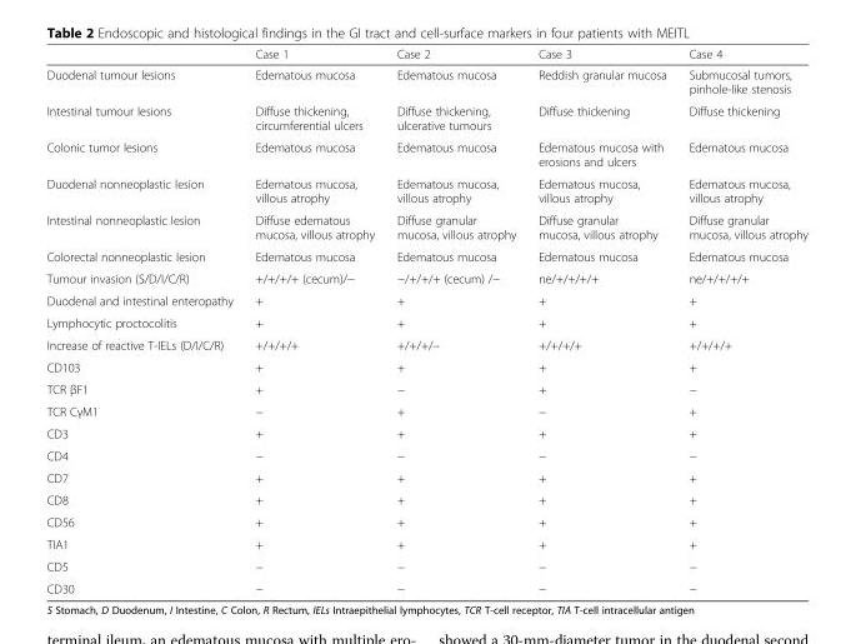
<table><thead><tr><td></td><td>Case 1</td><td>Case 2</td><td>Case 3</td><td>Case 4</td></tr></thead><tbody><tr><td>Duodenal tumour lesions</td><td>Edematous mucosa</td><td>Edematous mucosa</td><td>Reddish granular mucosa</td><td>Submucosal tumors, pinhole-like stenosis</td></tr><tr><td>Intestinal tumour lesions</td><td>Diffuse thickening, circumferential ulcers</td><td>Diffuse thickening, ulcerative tumours</td><td>Diffuse thickening</td><td>Diffuse thickening</td></tr><tr><td>Colonic tumor lesions</td><td>Edematous mucosa</td><td>Edematous mucosa</td><td>Edematous mucosa with erosions and ulcers</td><td>Edematous mucosa</td></tr><tr><td>Duodenal nonneoplastic lesion</td><td>Edematous mucosa, villous atrophy</td><td>Edematous mucosa, villous atrophy</td><td>Edematous mucosa, villous atrophy</td><td>Edematous mucosa, villous atrophy</td></tr><tr><td>Intestinal nonneoplastic lesion</td><td>Diffuse edematous mucosa, villous atrophy</td><td>Diffuse granular mucosa, villous atrophy</td><td>Diffuse granular mucosa, villous atrophy</td><td>Diffuse granular mucosa, villous atrophy</td></tr><tr><td>Colorectal nonneoplastic lesion</td><td>Edematous mucosa</td><td>Edematous mucosa</td><td>Edematous mucosa</td><td>Edematous mucosa</td></tr><tr><td>Tumour invasion (S/D/I/C/R)</td><td>+/+/+/+ (cecum)/−</td><td>−/+/+/+ (cecum) /−</td><td>ne/+/+/+/+</td><td>ne/+/+/+/+</td></tr><tr><td>Duodenal and intestinal enteropathy</td><td>+</td><td>+</td><td>+</td><td>+</td></tr><tr><td>Lymphocytic proctocolitis</td><td>+</td><td>+</td><td>+</td><td>+</td></tr><tr><td>Increase of reactive T-IELs (D/I/C/R)</td><td>+/+/+/+</td><td>+/+/+/−</td><td>+/+/+/+</td><td>+/+/+/+</td></tr><tr><td>CD103</td><td>+</td><td>+</td><td>+</td><td>+</td></tr><tr><td>TCR βF1</td><td>+</td><td>−</td><td>+</td><td>−</td></tr><tr><td>TCR CγM1</td><td>−</td><td>+</td><td>−</td><td>+</td></tr><tr><td>CD3</td><td>+</td><td>+</td><td>+</td><td>+</td></tr><tr><td>CD4</td><td>−</td><td>−</td><td>−</td><td>−</td></tr><tr><td>CD7</td><td>+</td><td>+</td><td>+</td><td>+</td></tr><tr><td>CD8</td><td>+</td><td>+</td><td>+</td><td>+</td></tr><tr><td>CD56</td><td>+</td><td>+</td><td>+</td><td>+</td></tr><tr><td>TIA1</td><td>+</td><td>+</td><td>+</td><td>+</td></tr><tr><td>CD5</td><td>−</td><td>−</td><td>−</td><td>−</td></tr><tr><td>CD30</td><td>−</td><td>−</td><td>−</td><td>−</td></tr></tbody></table>